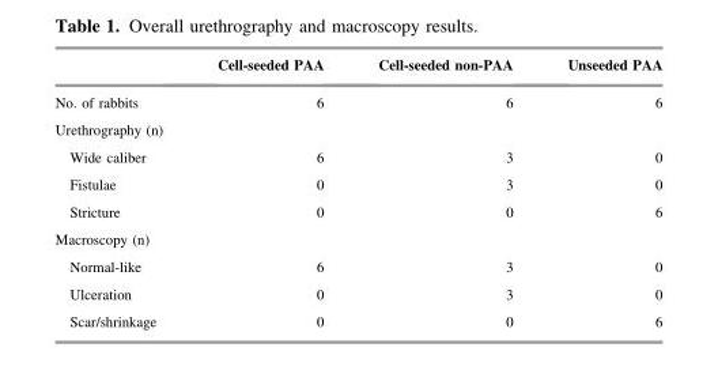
<table><thead><tr><td></td><td>Cell-seeded PAA</td><td>Cell-seeded non-PAA</td><td>Unseeded PAA</td></tr></thead><tbody><tr><td>No. of rabbits</td><td>6</td><td>6</td><td>6</td></tr><tr><td colspan="4">Urethrography (n)</td></tr><tr><td>Wide caliber</td><td>6</td><td>3</td><td>0</td></tr><tr><td>Fistulae</td><td>0</td><td>3</td><td>0</td></tr><tr><td>Stricture</td><td>0</td><td>0</td><td>6</td></tr><tr><td colspan="4">Macroscopy (n)</td></tr><tr><td>Normal-like</td><td>6</td><td>3</td><td>0</td></tr><tr><td>Ulceration</td><td>0</td><td>3</td><td>0</td></tr><tr><td>Scar/shrinkage</td><td>0</td><td>0</td><td>6</td></tr></tbody></table>